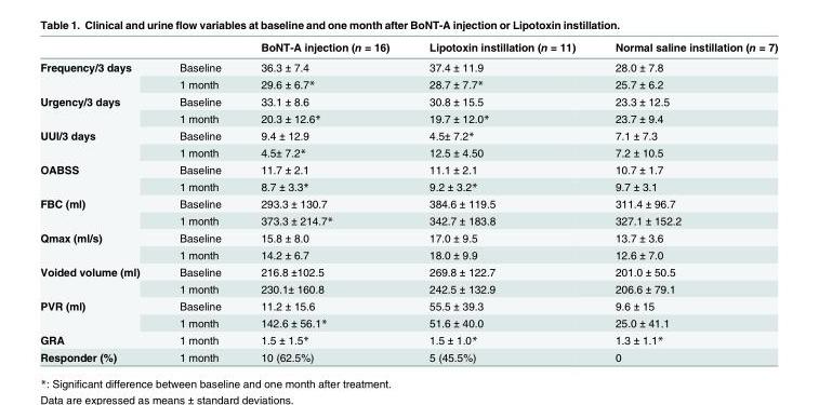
<table><thead><tr><td></td><td></td><td>BoNT-A injection (n = 16)</td><td>Lipotoxin instillation (n = 11)</td><td>Normal saline instillation (n = 7)</td></tr></thead><tbody><tr><td rowspan="2">Frequency/3 days</td><td>Baseline</td><td>36.3 ± 7.4</td><td>37.4 ± 11.9</td><td>28.0 ± 7.8</td></tr><tr><td>1 month</td><td>29.6 ± 6.7*</td><td>28.7 ± 7.7*</td><td>25.7 ± 6.2</td></tr><tr><td rowspan="2">Urgency/3 days</td><td>Baseline</td><td>33.1 ± 8.6</td><td>30.8 ± 15.5</td><td>23.3 ± 12.5</td></tr><tr><td>1 month</td><td>20.3 ± 12.6*</td><td>19.7 ± 12.0*</td><td>23.7 ± 9.4</td></tr><tr><td rowspan="2">UUI/3 days</td><td>Baseline</td><td>9.4 ± 12.9</td><td>4.5± 7.2*</td><td>7.1 ± 7.3</td></tr><tr><td>1 month</td><td>4.5± 7.2*</td><td>12.5 ± 4.50</td><td>7.2 ± 10.5</td></tr><tr><td rowspan="2">OABSS</td><td>Baseline</td><td>11.7 ± 2.1</td><td>11.1 ± 2.1</td><td>10.7 ± 1.7</td></tr><tr><td>1 month</td><td>8.7 ± 3.3*</td><td>9.2 ± 3.2*</td><td>9.7 ± 3.1</td></tr><tr><td rowspan="2">FBC (ml)</td><td>Baseline</td><td>293.3 ± 130.7</td><td>384.6 ± 119.5</td><td>311.4 ± 96.7</td></tr><tr><td>1 month</td><td>373.3 ± 214.7*</td><td>342.7 ± 183.8</td><td>327.1 ± 152.2</td></tr><tr><td rowspan="2">Qmax (ml/s)</td><td>Baseline</td><td>15.8 ± 8.0</td><td>17.0 ± 9.5</td><td>13.7 ± 3.6</td></tr><tr><td>1 month</td><td>14.2 ± 6.7</td><td>18.0 ± 9.9</td><td>12.6 ± 7.0</td></tr><tr><td rowspan="2">Voided volume (ml)</td><td>Baseline</td><td>216.8 ±102.5</td><td>269.8 ± 122.7</td><td>201.0 ± 50.5</td></tr><tr><td>1 month</td><td>230.1± 160.8</td><td>242.5 ± 132.9</td><td>206.6 ± 79.1</td></tr><tr><td rowspan="2">PVR (ml)</td><td>Baseline</td><td>11.2 ± 15.6</td><td>55.5 ± 39.3</td><td>9.6 ± 15</td></tr><tr><td>1 month</td><td>142.6 ± 56.1*</td><td>51.6 ± 40.0</td><td>25.0 ± 41.1</td></tr><tr><td>GRA</td><td>1 month</td><td>1.5 ± 1.5*</td><td>1.5 ± 1.0*</td><td>1.3 ± 1.1*</td></tr><tr><td>Responder (%)</td><td>1 month</td><td>10 (62.5%)</td><td>5 (45.5%)</td><td>0</td></tr></tbody></table>